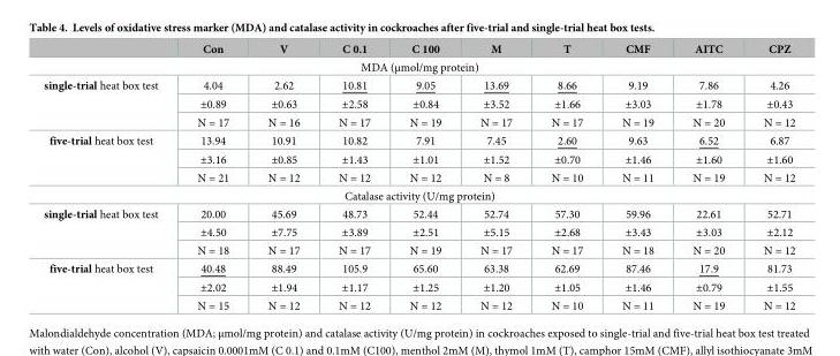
<table><thead><tr><td></td><td>Con</td><td>V</td><td>C 0.1</td><td>C 100</td><td>M</td><td>T</td><td>CMF</td><td>AITC</td><td>CPZ</td></tr></thead><tbody><tr><td colspan="10">MDA (μmol/mg protein)</td></tr><tr><td rowspan="3">single-trial heat box test</td><td>4.04</td><td>2.62</td><td>10.81</td><td>9.05</td><td>13.69</td><td>8.66</td><td>9.19</td><td>7.86</td><td>4.26</td></tr><tr><td>±0.89</td><td>±0.63</td><td>±2.58</td><td>±0.84</td><td>±3.52</td><td>±1.66</td><td>±3.03</td><td>±1.78</td><td>±0.43</td></tr><tr><td>N = 17</td><td>N = 16</td><td>N = 17</td><td>N = 19</td><td>N = 17</td><td>N = 17</td><td>N = 19</td><td>N = 20</td><td>N = 12</td></tr><tr><td rowspan="3">five-trial heat box test</td><td>13.94</td><td>10.91</td><td>10.82</td><td>7.91</td><td>7.45</td><td>2.60</td><td>9.63</td><td>6.52</td><td>6.87</td></tr><tr><td>±3.16</td><td>±0.85</td><td>±1.43</td><td>±1.01</td><td>±1.52</td><td>±0.70</td><td>±1.46</td><td>±1.60</td><td>±1.60</td></tr><tr><td>N = 21</td><td>N = 12</td><td>N = 12</td><td>N = 12</td><td>N = 8</td><td>N = 10</td><td>N = 11</td><td>N = 19</td><td>N = 12</td></tr><tr><td colspan="10">Catalase activity (U/mg protein)</td></tr><tr><td rowspan="3">single-trial heat box test</td><td>20.00</td><td>45.69</td><td>48.73</td><td>52.44</td><td>52.74</td><td>57.30</td><td>59.96</td><td>22.61</td><td>52.71</td></tr><tr><td>±4.50</td><td>±7.75</td><td>±3.89</td><td>±2.51</td><td>±5.15</td><td>±2.68</td><td>±3.43</td><td>±3.03</td><td>±2.12</td></tr><tr><td>N = 18</td><td>N = 17</td><td>N = 17</td><td>N = 19</td><td>N = 17</td><td>N = 17</td><td>N = 18</td><td>N = 20</td><td>N = 12</td></tr><tr><td rowspan="3">five-trial heat box test</td><td>40.48</td><td>88.49</td><td>105.9</td><td>65.60</td><td>63.38</td><td>62.69</td><td>87.46</td><td>17.9</td><td>81.73</td></tr><tr><td>±2.02</td><td>±1.94</td><td>±1.17</td><td>±1.25</td><td>±1.20</td><td>±1.05</td><td>±1.46</td><td>±0.79</td><td>±1.55</td></tr><tr><td>N = 15</td><td>N = 12</td><td>N = 12</td><td>N = 12</td><td>N = 12</td><td>N = 10</td><td>N = 11</td><td>N = 19</td><td>N = 12</td></tr></tbody></table>